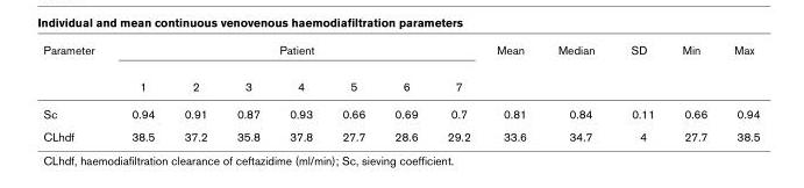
<table><thead><tr><td rowspan="2">Parameter</td><td colspan="7">Patient</td><td rowspan="2">Mean</td><td rowspan="2">Median</td><td rowspan="2">SD</td><td rowspan="2">Min</td><td rowspan="2">Max</td></tr><tr><td>1</td><td>2</td><td>3</td><td>4</td><td>5</td><td>6</td><td>7</td></tr></thead><tbody><tr><td>Sc</td><td>0.94</td><td>0.91</td><td>0.87</td><td>0.93</td><td>0.66</td><td>0.69</td><td>0.7</td><td>0.81</td><td>0.84</td><td>0.11</td><td>0.66</td><td>0.94</td></tr><tr><td>CLhdf</td><td>38.5</td><td>37.2</td><td>35.8</td><td>37.8</td><td>27.7</td><td>28.6</td><td>29.2</td><td>33.6</td><td>34.7</td><td>4</td><td>27.7</td><td>38.5</td></tr></tbody></table>